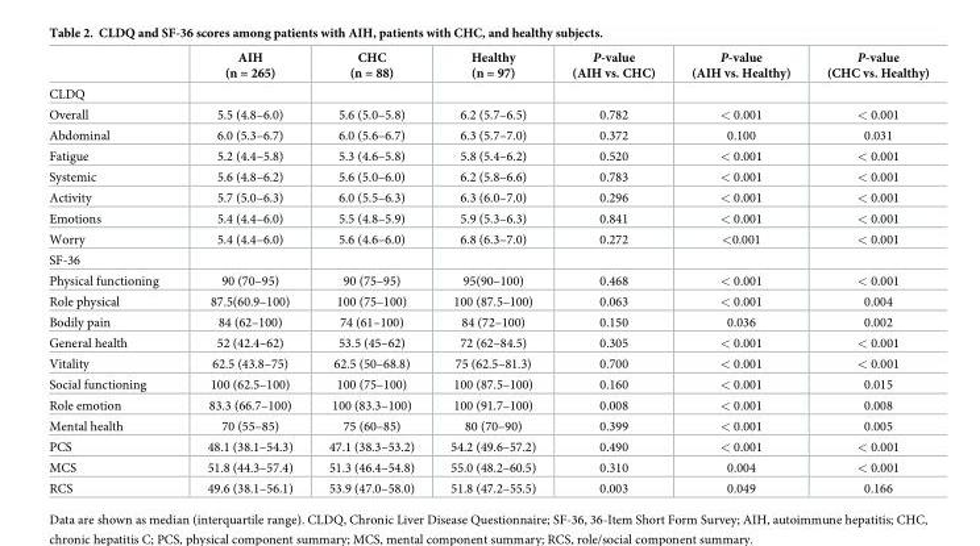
<table><thead><tr><td></td><td>AIH (n = 265)</td><td>CHC (n = 88)</td><td>Healthy (n = 97)</td><td>P-value (AIH vs. CHC)</td><td>P-value (AIH vs. Healthy)</td><td>P-value (CHC vs. Healthy)</td></tr></thead><tbody><tr><td colspan="7">CLDQ</td></tr><tr><td>Overall</td><td>5.5 (4.8–6.0)</td><td>5.6 (5.0–5.8)</td><td>6.2 (5.7–6.5)</td><td>0.782</td><td>&lt; 0.001</td><td>&lt; 0.001</td></tr><tr><td>Abdominal</td><td>6.0 (5.3–6.7)</td><td>6.0 (5.6–6.7)</td><td>6.3 (5.7–7.0)</td><td>0.372</td><td>0.100</td><td>0.031</td></tr><tr><td>Fatigue</td><td>5.2 (4.4–5.8)</td><td>5.3 (4.6–5.8)</td><td>5.8 (5.4–6.2)</td><td>0.520</td><td>&lt; 0.001</td><td>&lt; 0.001</td></tr><tr><td>Systemic</td><td>5.6 (4.8–6.2)</td><td>5.6 (5.0–6.0)</td><td>6.2 (5.8–6.6)</td><td>0.783</td><td>&lt; 0.001</td><td>&lt; 0.001</td></tr><tr><td>Activity</td><td>5.7 (5.0–6.3)</td><td>6.0 (5.5–6.3)</td><td>6.3 (6.0–7.0)</td><td>0.296</td><td>&lt; 0.001</td><td>&lt; 0.001</td></tr><tr><td>Emotions</td><td>5.4 (4.4–6.0)</td><td>5.5 (4.8–5.9)</td><td>5.9 (5.3–6.3)</td><td>0.841</td><td>&lt; 0.001</td><td>&lt; 0.001</td></tr><tr><td>Worry</td><td>5.4 (4.4–6.0)</td><td>5.6 (4.6–6.0)</td><td>6.8 (6.3–7.0)</td><td>0.272</td><td>&lt;0.001</td><td>&lt; 0.001</td></tr><tr><td colspan="7">SF-36</td></tr><tr><td>Physical functioning</td><td>90 (70–95)</td><td>90 (75–95)</td><td>95(90–100)</td><td>0.468</td><td>&lt; 0.001</td><td>&lt; 0.001</td></tr><tr><td>Role physical</td><td>87.5(60.9–100)</td><td>100 (75–100)</td><td>100 (87.5–100)</td><td>0.063</td><td>&lt; 0.001</td><td>0.004</td></tr><tr><td>Bodily pain</td><td>84 (62–100)</td><td>74 (61–100)</td><td>84 (72–100)</td><td>0.150</td><td>0.036</td><td>0.002</td></tr><tr><td>General health</td><td>52 (42.4–62)</td><td>53.5 (45–62)</td><td>72 (62–84.5)</td><td>0.305</td><td>&lt; 0.001</td><td>&lt; 0.001</td></tr><tr><td>Vitality</td><td>62.5 (43.8–75)</td><td>62.5 (50–68.8)</td><td>75 (62.5–81.3)</td><td>0.700</td><td>&lt; 0.001</td><td>&lt; 0.001</td></tr><tr><td>Social functioning</td><td>100 (62.5–100)</td><td>100 (75–100)</td><td>100 (87.5–100)</td><td>0.160</td><td>&lt; 0.001</td><td>0.015</td></tr><tr><td>Role emotion</td><td>83.3 (66.7–100)</td><td>100 (83.3–100)</td><td>100 (91.7–100)</td><td>0.008</td><td>&lt; 0.001</td><td>0.008</td></tr><tr><td>Mental health</td><td>70 (55–85)</td><td>75 (60–85)</td><td>80 (70–90)</td><td>0.399</td><td>&lt; 0.001</td><td>0.005</td></tr><tr><td>PCS</td><td>48.1 (38.1–54.3)</td><td>47.1 (38.3–53.2)</td><td>54.2 (49.6–57.2)</td><td>0.490</td><td>&lt; 0.001</td><td>&lt; 0.001</td></tr><tr><td>MCS</td><td>51.8 (44.3–57.4)</td><td>51.3 (46.4–54.8)</td><td>55.0 (48.2–60.5)</td><td>0.310</td><td>0.004</td><td>&lt; 0.001</td></tr><tr><td>RCS</td><td>49.6 (38.1–56.1)</td><td>53.9 (47.0–58.0)</td><td>51.8 (47.2–55.5)</td><td>0.003</td><td>0.049</td><td>0.166</td></tr></tbody></table>